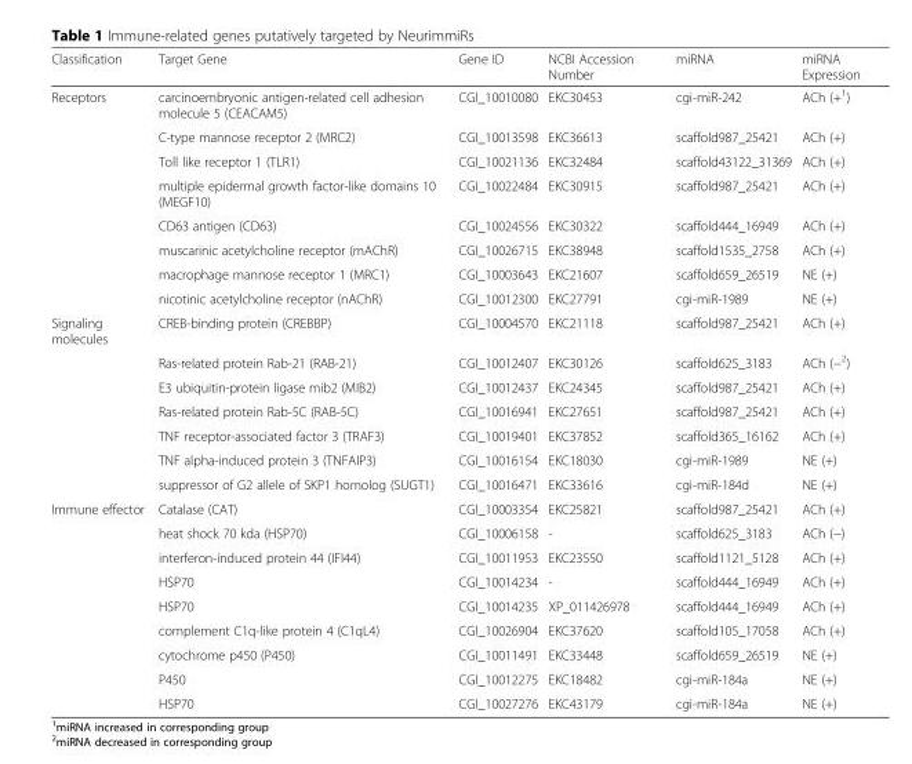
<table><thead><tr><td>Classification</td><td>Target Gene</td><td>Gene ID</td><td>NCBI Accession Number</td><td>miRNA</td><td>miRNA Expression</td></tr></thead><tbody><tr><td rowspan="8">Receptors</td><td>carcinoembryonic antigen-related cell adhesion molecule 5 (CEACAM5)</td><td>CGI_10010080</td><td>EKC30453</td><td>cgi-miR-242</td><td>ACh (+<sup>1</sup>)</td></tr><tr><td>C-type mannose receptor 2 (MRC2)</td><td>CGI_10013598</td><td>EKC36613</td><td>scaffold987_25421</td><td>ACh (+)</td></tr><tr><td>Toll like receptor 1 (TLR1)</td><td>CGI_10021136</td><td>EKC32484</td><td>scaffold43122_31369</td><td>ACh (+)</td></tr><tr><td>multiple epidermal growth factor-like domains 10 (MEGF10)</td><td>CGI_10022484</td><td>EKC30915</td><td>scaffold987_25421</td><td>ACh (+)</td></tr><tr><td>CD63 antigen (CD63)</td><td>CGI_10024556</td><td>EKC30322</td><td>scaffold444_16949</td><td>ACh (+)</td></tr><tr><td>muscarinic acetylcholine receptor (mAChR)</td><td>CGI_10026715</td><td>EKC38948</td><td>scaffold1535_2758</td><td>ACh (+)</td></tr><tr><td>macrophage mannose receptor 1 (MRC1)</td><td>CGI_10003643</td><td>EKC21607</td><td>scaffold659_26519</td><td>NE (+)</td></tr><tr><td>nicotinic acetylcholine receptor (nAChR)</td><td>CGI_10012300</td><td>EKC27791</td><td>cgi-miR-1989</td><td>NE (+)</td></tr><tr><td rowspan="7">Signaling molecules</td><td>CREB-binding protein (CREBBP)</td><td>CGI_10004570</td><td>EKC21118</td><td>scaffold987_25421</td><td>ACh (+)</td></tr><tr><td>Ras-related protein Rab-21 (RAB-21)</td><td>CGI_10012407</td><td>EKC30126</td><td>scaffold625_3183</td><td>ACh (−<sup>2</sup>)</td></tr><tr><td>E3 ubiquitin-protein ligase mib2 (MIB2)</td><td>CGI_10012437</td><td>EKC24345</td><td>scaffold987_25421</td><td>ACh (+)</td></tr><tr><td>Ras-related protein Rab-5C (RAB-5C)</td><td>CGI_10016941</td><td>EKC27651</td><td>scaffold987_25421</td><td>ACh (+)</td></tr><tr><td>TNF receptor-associated factor 3 (TRAF3)</td><td>CGI_10019401</td><td>EKC37852</td><td>scaffold365_16162</td><td>ACh (+)</td></tr><tr><td>TNF alpha-induced protein 3 (TNFAIP3)</td><td>CGI_10016154</td><td>EKC18030</td><td>cgi-miR-1989</td><td>NE (+)</td></tr><tr><td>suppressor of G2 allele of SKP1 homolog (SUGT1)</td><td>CGI_10016471</td><td>EKC33616</td><td>cgi-miR-184d</td><td>NE (+)</td></tr><tr><td rowspan="9">Immune effector</td><td>Catalase (CAT)</td><td>CGI_10003354</td><td>EKC25821</td><td>scaffold987_25421</td><td>ACh (+)</td></tr><tr><td>heat shock 70 kda (HSP70)</td><td>CGI_10006158</td><td>-</td><td>scaffold625_3183</td><td>ACh (−)</td></tr><tr><td>interferon-induced protein 44 (IFI44)</td><td>CGI_10011953</td><td>EKC23550</td><td>scaffold1121_5128</td><td>ACh (+)</td></tr><tr><td>HSP70</td><td>CGI_10014234</td><td>-</td><td>scaffold444_16949</td><td>ACh (+)</td></tr><tr><td>HSP70</td><td>CGI_10014235</td><td>XP_011426978</td><td>scaffold444_16949</td><td>ACh (+)</td></tr><tr><td>complement C1q-like protein 4 (C1qL4)</td><td>CGI_10026904</td><td>EKC37620</td><td>scaffold105_17058</td><td>ACh (+)</td></tr><tr><td>cytochrome p450 (P450)</td><td>CGI_10011491</td><td>EKC33448</td><td>scaffold659_26519</td><td>NE (+)</td></tr><tr><td>P450</td><td>CGI_10012275</td><td>EKC18482</td><td>cgi-miR-184a</td><td>NE (+)</td></tr><tr><td>HSP70</td><td>CGI_10027276</td><td>EKC43179</td><td>cgi-miR-184a</td><td>NE (+)</td></tr></tbody></table>